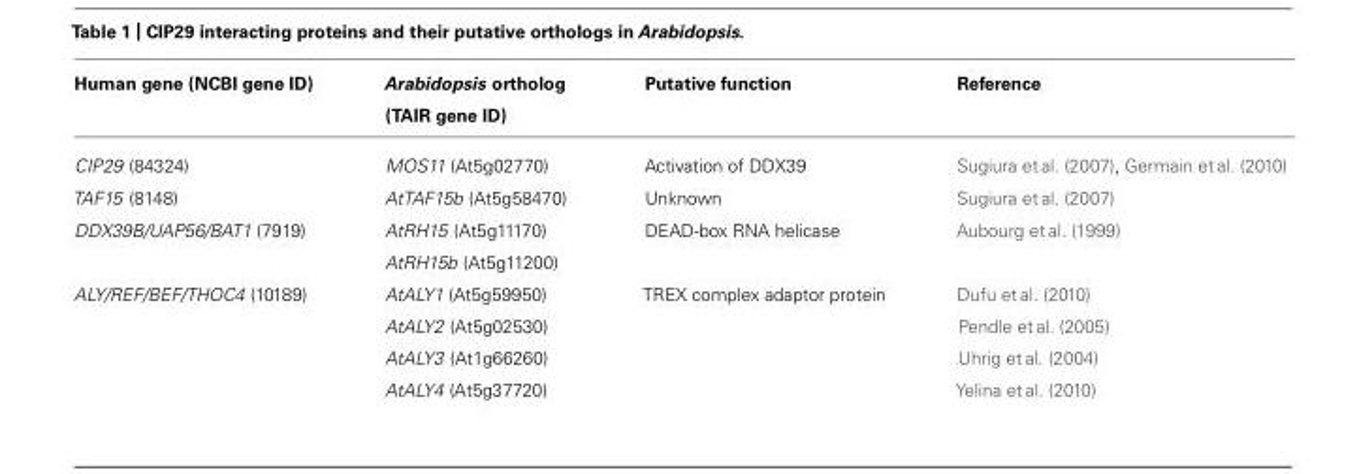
<table><thead><tr><td>Human gene (NCBI gene ID)</td><td>Arabidopsis ortholog (TAIR gene ID)</td><td>Putative function</td><td>Reference</td></tr></thead><tbody><tr><td>CIP29 (84324)</td><td>MOS11 (At5g02770)</td><td>Activation of DDX39</td><td>Sugiura et al. (2007), Germain et al. (2010)</td></tr><tr><td>TAF15 (8148)</td><td>AtTAF15b (At5g58470)</td><td>Unknown</td><td>Sugiura et al. (2007)</td></tr><tr><td>DDX39B/UAP56/BAT1 (7919)</td><td>AtRH15 (At5g11170) AtRH15b (At5g11200)</td><td>DEAD-box RNA helicase</td><td>Aubourg et al. (1999)</td></tr><tr><td>ALY/REF/BEF/THOC4 (10189)</td><td>AtALY1 (At5g59950) AtALY2 (At5g02530) AtALY3 (At1g66260) AtALY4 (At5g37720)</td><td>TREX complex adaptor protein</td><td>Dufu et al. (2010) Pendle et al. (2005) Uhrig et al. (2004) Yelina et al. (2010)</td></tr></tbody></table>